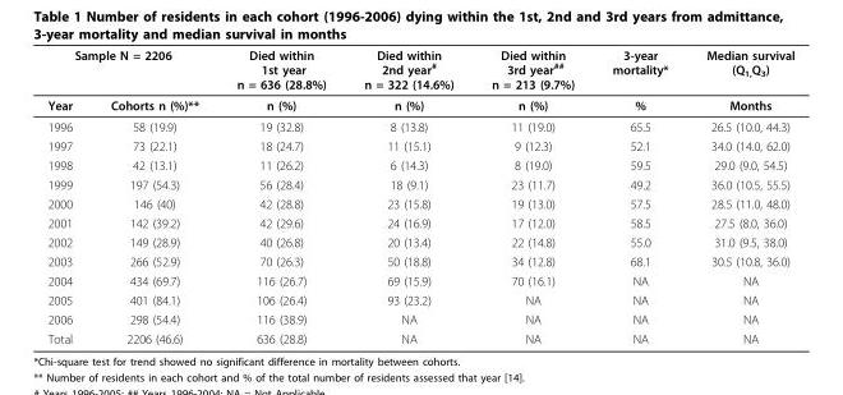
<table><thead><tr><td colspan="2">Sample N = 2206</td><td rowspan="2">Died within 1st year n = 636 (28.8%) n (%)</td><td rowspan="2">Died within 2nd year# n = 322 (14.6%) n (%)</td><td rowspan="2">Died within 3rd year## n = 213 (9.7%) n (%)</td><td rowspan="2">3-year mortality* %</td><td rowspan="2">Median survival (Q1,Q3) Months</td></tr><tr><td>Year</td><td>Cohorts n (%)**</td></tr></thead><tbody><tr><td>1996</td><td>58 (19.9)</td><td>19 (32.8)</td><td>8 (13.8)</td><td>11 (19.0)</td><td>65.5</td><td>26.5 (10.0, 44.3)</td></tr><tr><td>1997</td><td>73 (22.1)</td><td>18 (24.7)</td><td>11 (15.1)</td><td>9 (12.3)</td><td>52.1</td><td>34.0 (14.0, 62.0)</td></tr><tr><td>1998</td><td>42 (13.1)</td><td>11 (26.2)</td><td>6 (14.3)</td><td>8 (19.0)</td><td>59.5</td><td>29.0 (9.0, 54.5)</td></tr><tr><td>1999</td><td>197 (54.3)</td><td>56 (28.4)</td><td>18 (9.1)</td><td>23 (11.7)</td><td>49.2</td><td>36.0 (10.5, 55.5)</td></tr><tr><td>2000</td><td>146 (40)</td><td>42 (28.8)</td><td>23 (15.8)</td><td>19 (13.0)</td><td>57.5</td><td>28.5 (11.0, 48.0)</td></tr><tr><td>2001</td><td>142 (39.2)</td><td>42 (29.6)</td><td>24 (16.9)</td><td>17 (12.0)</td><td>58.5</td><td>27.5 (8.0, 36.0)</td></tr><tr><td>2002</td><td>149 (28.9)</td><td>40 (26.8)</td><td>20 (13.4)</td><td>22 (14.8)</td><td>55.0</td><td>31.0 (9.5, 38.0)</td></tr><tr><td>2003</td><td>266 (52.9)</td><td>70 (26.3)</td><td>50 (18.8)</td><td>34 (12.8)</td><td>68.1</td><td>30.5 (10.8, 36.0)</td></tr><tr><td>2004</td><td>434 (69.7)</td><td>116 (26.7)</td><td>69 (15.9)</td><td>70 (16.1)</td><td>NA</td><td>NA</td></tr><tr><td>2005</td><td>401 (84.1)</td><td>106 (26.4)</td><td>93 (23.2)</td><td>NA</td><td>NA</td><td>NA</td></tr><tr><td>2006</td><td>298 (54.4)</td><td>116 (38.9)</td><td>NA</td><td>NA</td><td>NA</td><td>NA</td></tr><tr><td>Total</td><td>2206 (46.6)</td><td>636 (28.8)</td><td>NA</td><td>NA</td><td>NA</td><td>NA</td></tr></tbody></table>